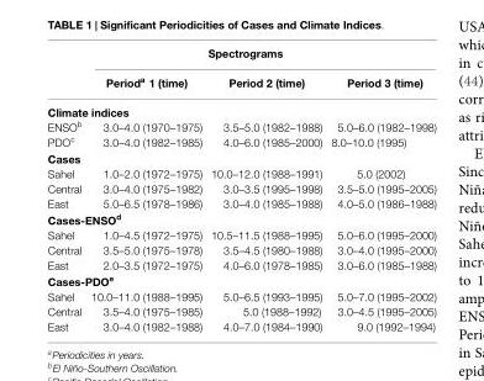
<table><thead><tr><td colspan="4">Spectrograms</td></tr><tr><td></td><td>Period<sup>a</sup> 1 (time)</td><td>Period 2 (time)</td><td>Period 3 (time)</td></tr></thead><tbody><tr><td colspan="4">Climate indices</td></tr><tr><td>ENSO<sup>b</sup></td><td>3.0–4.0 (1970–1975)</td><td>3.5–5.0 (1982–1988)</td><td>5.0–6.0 (1982–1998)</td></tr><tr><td>PDO<sup>c</sup></td><td>3.0–4.0 (1982–1985)</td><td>4.0–6.0 (1985–2000)</td><td>8.0–10.0 (1995)</td></tr><tr><td colspan="4">Cases</td></tr><tr><td>Sahel</td><td>1.0–2.0 (1972–1975)</td><td>10.0–12.0 (1988–1991)</td><td>5.0 (2002)</td></tr><tr><td>Central</td><td>3.0–4.0 (1975–1982)</td><td>3.0–3.5 (1995–1998)</td><td>3.5–5.0 (1995–2005)</td></tr><tr><td>East</td><td>5.0–6.5 (1978–1986)</td><td>3.0–4.0 (1985–1988)</td><td>4.0–5.0 (1986–1988)</td></tr><tr><td colspan="4">Cases-ENSO<sup>d</sup></td></tr><tr><td>Sahel</td><td>1.0–4.5 (1972–1975)</td><td>10.5–11.5 (1988–1995)</td><td>5.0–6.0 (1995–2000)</td></tr><tr><td>Central</td><td>3.5–5.0 (1975–1978)</td><td>3.5–4.5 (1980–1988)</td><td>3.0–4.0 (1995–2000)</td></tr><tr><td>East</td><td>2.0–3.5 (1972–1975)</td><td>4.0–6.0 (1978–1985)</td><td>3.0–6.0 (1985–1988)</td></tr><tr><td colspan="4">Cases-PDO<sup>e</sup></td></tr><tr><td>Sahel</td><td>10.0–11.0 (1988–1995)</td><td>5.0–6.5 (1993–1995)</td><td>5.0–7.0 (1995–2002)</td></tr><tr><td>Central</td><td>3.5–4.0 (1975–1985)</td><td>5.0 (1988–1992)</td><td>3.0–4.5 (1995–2005)</td></tr><tr><td>East</td><td>3.0–4.0 (1982–1988)</td><td>4.0–7.0 (1984–1990)</td><td>9.0 (1992–1994)</td></tr></tbody></table>